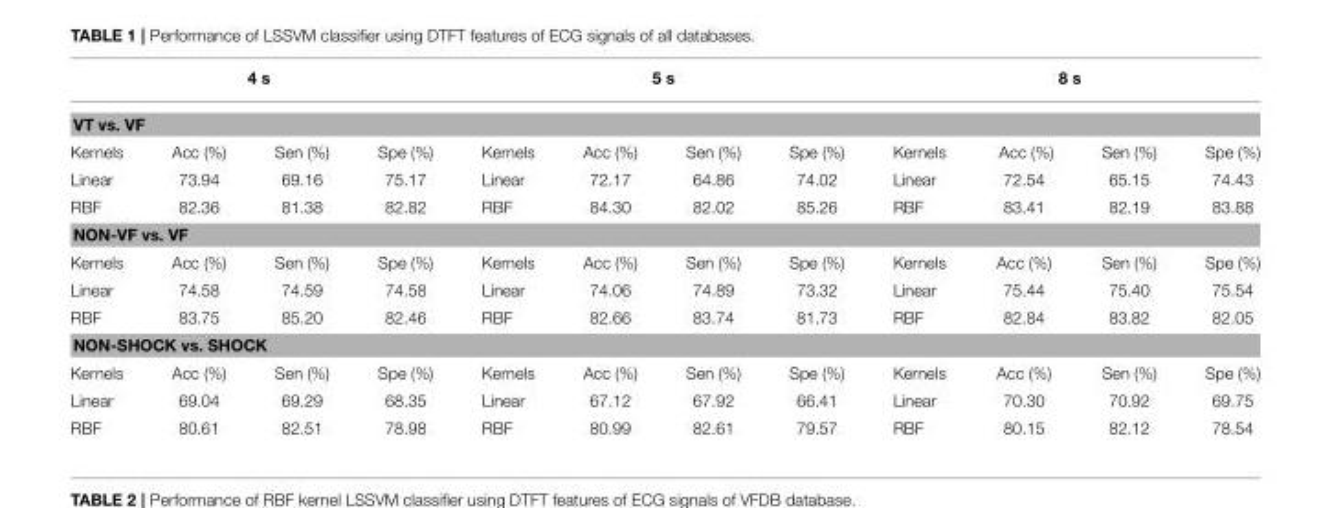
<table><thead><tr><td colspan="4">4 s</td><td colspan="4">5 s</td><td colspan="4">8 s</td></tr><tr><td colspan="12">VT vs. VF</td></tr><tr><td>Kernels</td><td>Acc (%)</td><td>Sen (%)</td><td>Spe (%)</td><td>Kernels</td><td>Acc (%)</td><td>Sen (%)</td><td>Spe (%)</td><td>Kernels</td><td>Acc (%)</td><td>Sen (%)</td><td>Spe (%)</td></tr></thead><tbody><tr><td>Linear</td><td>73.94</td><td>69.16</td><td>75.17</td><td>Linear</td><td>72.17</td><td>64.86</td><td>74.02</td><td>Linear</td><td>72.54</td><td>65.15</td><td>74.43</td></tr><tr><td>RBF</td><td>82.36</td><td>81.38</td><td>82.82</td><td>RBF</td><td>84.30</td><td>82.02</td><td>85.26</td><td>RBF</td><td>83.41</td><td>82.19</td><td>83.88</td></tr><tr><td colspan="12">NON-VF vs. VF</td></tr><tr><td>Kernels</td><td>Acc (%)</td><td>Sen (%)</td><td>Spe (%)</td><td>Kernels</td><td>Acc (%)</td><td>Sen (%)</td><td>Spe (%)</td><td>Kernels</td><td>Acc (%)</td><td>Sen (%)</td><td>Spe (%)</td></tr><tr><td>Linear</td><td>74.58</td><td>74.59</td><td>74.58</td><td>Linear</td><td>74.06</td><td>74.89</td><td>73.32</td><td>Linear</td><td>75.44</td><td>75.40</td><td>75.54</td></tr><tr><td>RBF</td><td>83.75</td><td>85.20</td><td>82.46</td><td>RBF</td><td>82.66</td><td>83.74</td><td>81.73</td><td>RBF</td><td>82.84</td><td>83.82</td><td>82.05</td></tr><tr><td colspan="12">NON-SHOCK vs. SHOCK</td></tr><tr><td>Kernels</td><td>Acc (%)</td><td>Sen (%)</td><td>Spe (%)</td><td>Kernels</td><td>Acc (%)</td><td>Sen (%)</td><td>Spe (%)</td><td>Kernels</td><td>Acc (%)</td><td>Sen (%)</td><td>Spe (%)</td></tr><tr><td>Linear</td><td>69.04</td><td>69.29</td><td>68.35</td><td>Linear</td><td>67.12</td><td>67.92</td><td>66.41</td><td>Linear</td><td>70.30</td><td>70.92</td><td>69.75</td></tr><tr><td>RBF</td><td>80.61</td><td>82.51</td><td>78.98</td><td>RBF</td><td>80.99</td><td>82.61</td><td>79.57</td><td>RBF</td><td>80.15</td><td>82.12</td><td>78.54</td></tr></tbody></table>